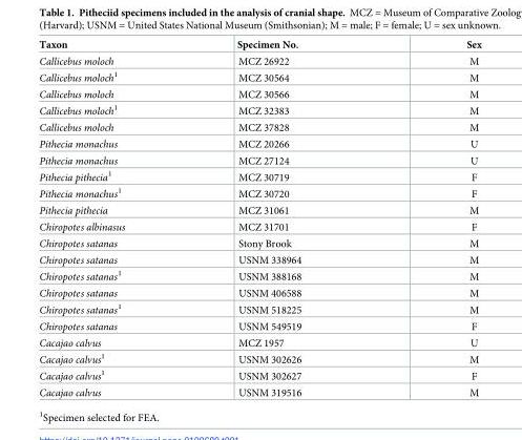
<table><thead><tr><td>Taxon</td><td>Specimen No.</td><td>Sex</td></tr></thead><tbody><tr><td>Callicebus moloch</td><td>MCZ 26922</td><td>M</td></tr><tr><td>Callicebus moloch<sup>1</sup></td><td>MCZ 30564</td><td>M</td></tr><tr><td>Callicebus moloch</td><td>MCZ 30566</td><td>M</td></tr><tr><td>Callicebus moloch<sup>1</sup></td><td>MCZ 32383</td><td>M</td></tr><tr><td>Callicebus moloch</td><td>MCZ 37828</td><td>M</td></tr><tr><td>Pithecia monachus</td><td>MCZ 20266</td><td>U</td></tr><tr><td>Pithecia monachus</td><td>MCZ 27124</td><td>U</td></tr><tr><td>Pithecia pithecia<sup>1</sup></td><td>MCZ 30719</td><td>F</td></tr><tr><td>Pithecia monachus<sup>1</sup></td><td>MCZ 30720</td><td>F</td></tr><tr><td>Pithecia pithecia</td><td>MCZ 31061</td><td>M</td></tr><tr><td>Chiropotes albinasus</td><td>MCZ 31701</td><td>F</td></tr><tr><td>Chiropotes satanas</td><td>Stony Brook</td><td>M</td></tr><tr><td>Chiropotes satanas</td><td>USNM 338964</td><td>M</td></tr><tr><td>Chiropotes satanas<sup>1</sup></td><td>USNM 388168</td><td>M</td></tr><tr><td>Chiropotes satanas</td><td>USNM 406588</td><td>M</td></tr><tr><td>Chiropotes satanas<sup>1</sup></td><td>USNM 518225</td><td>M</td></tr><tr><td>Chiropotes satanas</td><td>USNM 549519</td><td>F</td></tr><tr><td>Cacajao calvus</td><td>MCZ 1957</td><td>U</td></tr><tr><td>Cacajao calvus<sup>1</sup></td><td>USNM 302626</td><td>M</td></tr><tr><td>Cacajao calvus<sup>1</sup></td><td>USNM 302627</td><td>F</td></tr><tr><td>Cacajao calvus</td><td>USNM 319516</td><td>M</td></tr></tbody></table>